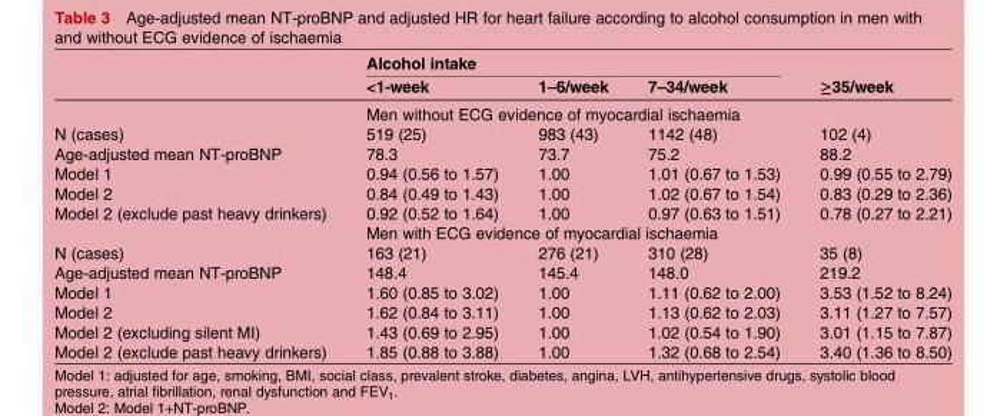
<table><thead><tr><td rowspan="2"></td><td colspan="3">Alcohol intake</td><td rowspan="2">≥35/week</td></tr><tr><td>&lt;1-week</td><td>1–6/week</td><td>7–34/week</td></tr></thead><tbody><tr><td></td><td colspan="3">Men without ECG evidence of myocardial ischaemia</td><td></td></tr><tr><td>N (cases)</td><td>519 (25)</td><td>983 (43)</td><td>1142 (48)</td><td>102 (4)</td></tr><tr><td>Age-adjusted mean NT-proBNP</td><td>78.3</td><td>73.7</td><td>75.2</td><td>88.2</td></tr><tr><td>Model 1</td><td>0.94 (0.56 to 1.57)</td><td>1.00</td><td>1.01 (0.67 to 1.53)</td><td>0.99 (0.55 to 2.79)</td></tr><tr><td>Model 2</td><td>0.84 (0.49 to 1.43)</td><td>1.00</td><td>1.02 (0.67 to 1.54)</td><td>0.83 (0.29 to 2.36)</td></tr><tr><td rowspan="2">Model 2 (exclude past heavy drinkers)</td><td>0.92 (0.52 to 1.64)</td><td>1.00</td><td>0.97 (0.63 to 1.51)</td><td>0.78 (0.27 to 2.21)</td></tr><tr><td colspan="3">Men with ECG evidence of myocardial ischaemia</td><td></td></tr><tr><td>N (cases)</td><td>163 (21)</td><td>276 (21)</td><td>310 (28)</td><td>35 (8)</td></tr><tr><td>Age-adjusted mean NT-proBNP</td><td>148.4</td><td>145.4</td><td>148.0</td><td>219.2</td></tr><tr><td>Model 1</td><td>1.60 (0.85 to 3.02)</td><td>1.00</td><td>1.11 (0.62 to 2.00)</td><td>3.53 (1.52 to 8.24)</td></tr><tr><td>Model 2</td><td>1.62 (0.84 to 3.11)</td><td>1.00</td><td>1.13 (0.62 to 2.03)</td><td>3.11 (1.27 to 7.57)</td></tr><tr><td>Model 2 (excluding silent MI)</td><td>1.43 (0.69 to 2.95)</td><td>1.00</td><td>1.02 (0.54 to 1.90)</td><td>3.01 (1.15 to 7.87)</td></tr><tr><td>Model 2 (exclude past heavy drinkers)</td><td>1.85 (0.88 to 3.88)</td><td>1.00</td><td>1.32 (0.68 to 2.54)</td><td>3.40 (1.36 to 8.50)</td></tr></tbody></table>